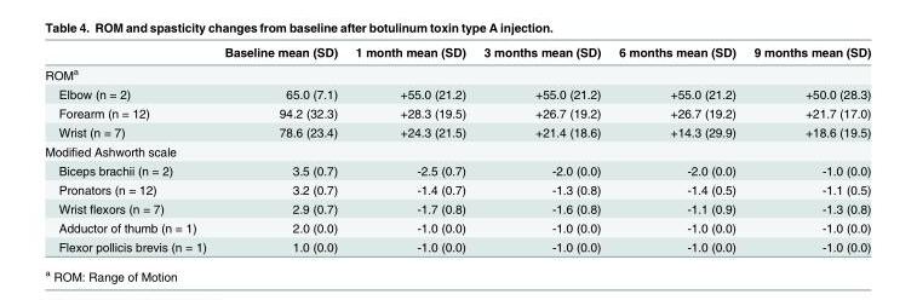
<table><thead><tr><td></td><td>Baseline mean (SD)</td><td>1 month mean (SD)</td><td>3 months mean (SD)</td><td>6 months mean (SD)</td><td>9 months mean (SD)</td></tr></thead><tbody><tr><td colspan="6">ROM<sup>a</sup></td></tr><tr><td>Elbow (n = 2)</td><td>65.0 (7.1)</td><td>+55.0 (21.2)</td><td>+55.0 (21.2)</td><td>+55.0 (21.2)</td><td>+50.0 (28.3)</td></tr><tr><td>Forearm (n = 12)</td><td>94.2 (32.3)</td><td>+28.3 (19.5)</td><td>+26.7 (19.2)</td><td>+26.7 (19.2)</td><td>+21.7 (17.0)</td></tr><tr><td>Wrist (n = 7)</td><td>78.6 (23.4)</td><td>+24.3 (21.5)</td><td>+21.4 (18.6)</td><td>+14.3 (29.9)</td><td>+18.6 (19.5)</td></tr><tr><td colspan="6">Modified Ashworth scale</td></tr><tr><td>Biceps brachii (n = 2)</td><td>3.5 (0.7)</td><td>-2.5 (0.7)</td><td>-2.0 (0.0)</td><td>-2.0 (0.0)</td><td>-1.0 (0.0)</td></tr><tr><td>Pronators (n = 12)</td><td>3.2 (0.7)</td><td>-1.4 (0.7)</td><td>-1.3 (0.8)</td><td>-1.4 (0.5)</td><td>-1.1 (0.5)</td></tr><tr><td>Wrist flexors (n = 7)</td><td>2.9 (0.7)</td><td>-1.7 (0.8)</td><td>-1.6 (0.8)</td><td>-1.1 (0.9)</td><td>-1.3 (0.8)</td></tr><tr><td>Adductor of thumb (n = 1)</td><td>2.0 (0.0)</td><td>-1.0 (0.0)</td><td>-1.0 (0.0)</td><td>-1.0 (0.0)</td><td>-1.0 (0.0)</td></tr><tr><td>Flexor pollicis brevis (n = 1)</td><td>1.0 (0.0)</td><td>-1.0 (0.0)</td><td>-1.0 (0.0)</td><td>-1.0 (0.0)</td><td>-1.0 (0.0)</td></tr></tbody></table>